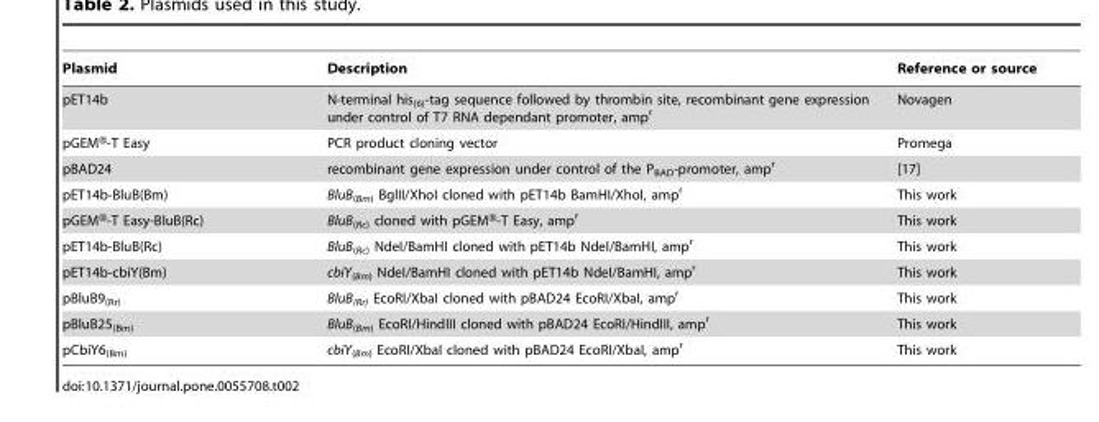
<table><thead><tr><td>Plasmid</td><td>Description</td><td>Reference or source</td></tr></thead><tbody><tr><td>pET14b</td><td>N-terminal his<sub>(6)</sub>-tag sequence followed by thrombin site, recombinant gene expression under control of T7 RNA dependant promoter, amp<sup>r</sup></td><td>Novagen</td></tr><tr><td>pGEM®-T Easy</td><td>PCR product cloning vector</td><td>Promega</td></tr><tr><td>pBAD24</td><td>recombinant gene expression under control of the P<sub>BAD</sub>-promoter, amp<sup>r</sup></td><td>[17]</td></tr><tr><td>pET14b-BluB(Bm)</td><td>BluB<sub>(Bm)</sub> BglII/XhoI cloned with pET14b BamHI/XhoI, amp<sup>r</sup></td><td>This work</td></tr><tr><td>pGEM®-T Easy-BluB(Rc)</td><td>BluB<sub>(Rc)</sub> cloned with pGEM®-T Easy, amp<sup>r</sup></td><td>This work</td></tr><tr><td>pET14b-BluB(Rc)</td><td>BluB<sub>(Rc)</sub> NdeI/BamHI cloned with pET14b NdeI/BamHI, amp<sup>r</sup></td><td>This work</td></tr><tr><td>pET14b-cbiY(Bm)</td><td>cbiY<sub>(Bm)</sub> NdeI/BamHI cloned with pET14b NdeI/BamHI, amp<sup>r</sup></td><td>This work</td></tr><tr><td>pBluB9<sub>(Rr)</sub></td><td>BluB<sub>(Rr)</sub> EcoRI/XbaI cloned with pBAD24 EcoRI/XbaI, amp<sup>r</sup></td><td>This work</td></tr><tr><td>pBluB25<sub>(Bm)</sub></td><td>BluB<sub>(Bm)</sub> EcoRI/HindIII cloned with pBAD24 EcoRI/HindIII, amp<sup>r</sup></td><td>This work</td></tr><tr><td>pCbiY6<sub>(Bm)</sub></td><td>cbiY<sub>(Bm)</sub> EcoRI/XbaI cloned with pBAD24 EcoRI/XbaI, amp<sup>r</sup></td><td>This work</td></tr></tbody></table>